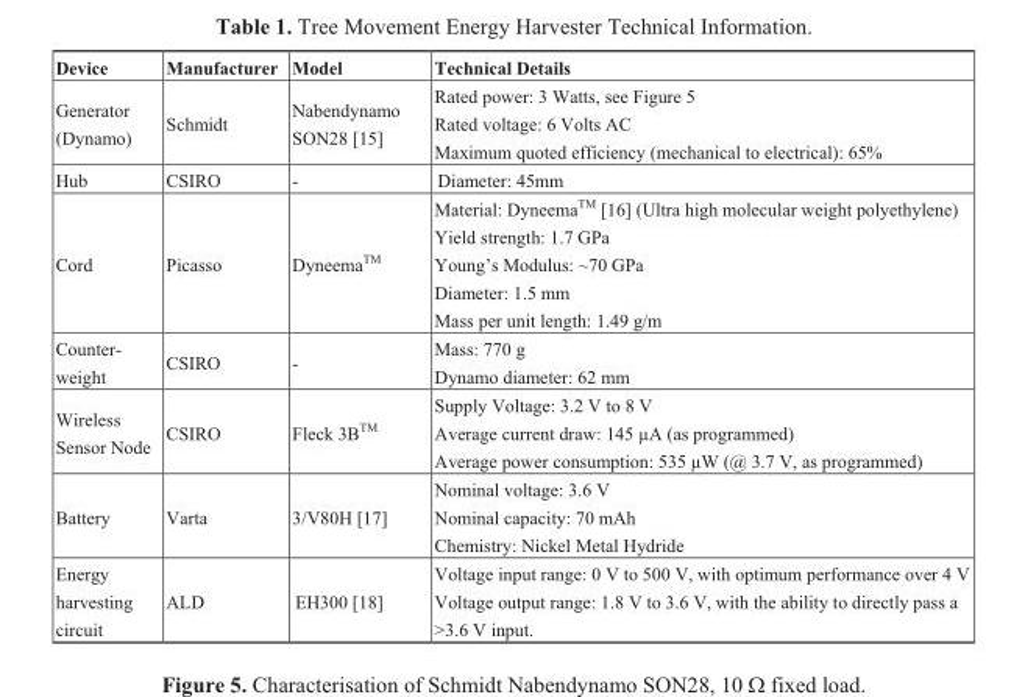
<table><thead><tr><td>Device</td><td>Manufacturer</td><td>Model</td><td>Technical Details</td></tr></thead><tbody><tr><td>Generator (Dynamo)</td><td>Schmidt</td><td>Nabendynamo SON28 [15]</td><td>Rated power: 3 Watts, see Figure 5 Rated voltage: 6 Volts AC Maximum quoted efficiency (mechanical to electrical): 65%</td></tr><tr><td>Hub</td><td>CSIRO</td><td>-</td><td>Diameter: 45mm</td></tr><tr><td>Cord</td><td>Picasso</td><td>DyneemaTM</td><td>Material: DyneemaTM [16] (Ultra high molecular weight polyethylene) Yield strength: 1.7 GPa Young’s Modulus: ~70 GPa Diameter: 1.5 mm Mass per unit length: 1.49 g/m</td></tr><tr><td>Counter- weight</td><td>CSIRO</td><td>-</td><td>Mass: 770 g Dynamo diameter: 62 mm</td></tr><tr><td>Wireless Sensor Node</td><td>CSIRO</td><td>Fleck 3BTM</td><td>Supply Voltage: 3.2 V to 8 V Average current draw: 145 μA (as programmed) Average power consumption: 535 μW (@ 3.7 V, as programmed)</td></tr><tr><td>Battery</td><td>Varta</td><td>3/V80H [17]</td><td>Nominal voltage: 3.6 V Nominal capacity: 70 mAh Chemistry: Nickel Metal Hydride</td></tr><tr><td>Energy harvesting circuit</td><td>ALD</td><td>EH300 [18]</td><td>Voltage input range: 0 V to 500 V, with optimum performance over 4 V Voltage output range: 1.8 V to 3.6 V, with the ability to directly pass a &gt;3.6 V input.</td></tr></tbody></table>